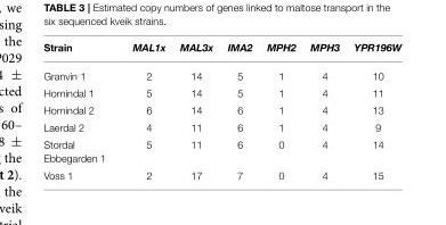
<table><thead><tr><td>Strain</td><td>MAL1x</td><td>MAL3x</td><td>IMA2</td><td>MPH2</td><td>MPH3</td><td>YPR196W</td></tr></thead><tbody><tr><td>Granvin 1</td><td>2</td><td>14</td><td>5</td><td>1</td><td>4</td><td>10</td></tr><tr><td>Hornindal 1</td><td>5</td><td>14</td><td>5</td><td>1</td><td>4</td><td>11</td></tr><tr><td>Hornindal 2</td><td>6</td><td>14</td><td>6</td><td>1</td><td>4</td><td>13</td></tr><tr><td>Laerdal 2</td><td>4</td><td>11</td><td>6</td><td>1</td><td>4</td><td>9</td></tr><tr><td>Stordal Ebbegarden 1</td><td>5</td><td>11</td><td>6</td><td>0</td><td>4</td><td>14</td></tr><tr><td>Voss 1</td><td>2</td><td>17</td><td>7</td><td>0</td><td>4</td><td>15</td></tr></tbody></table>